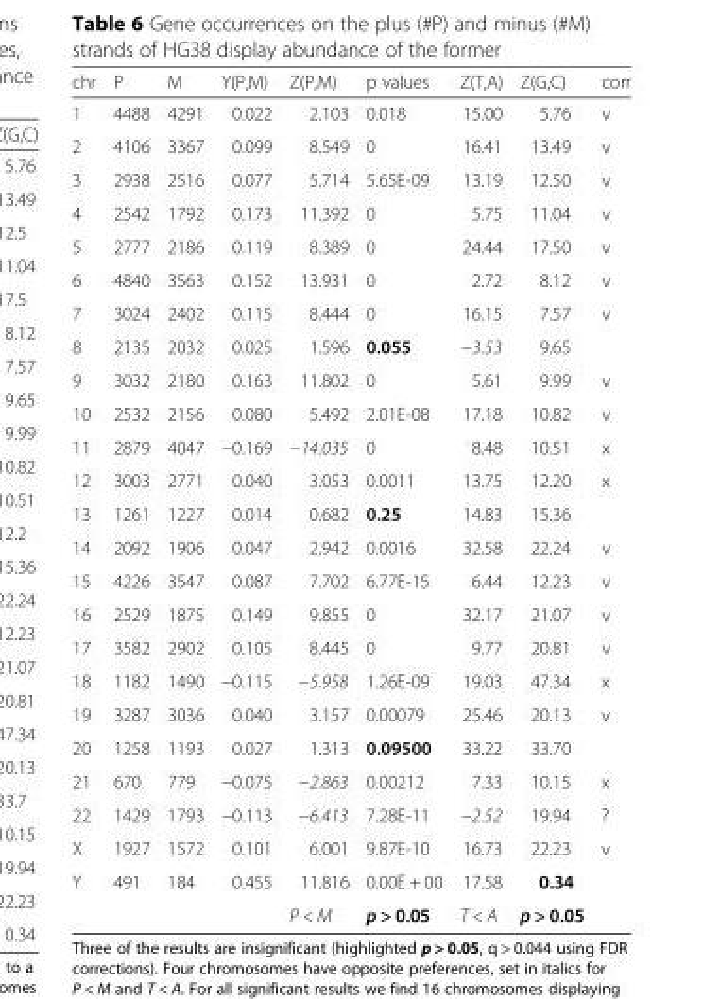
<table><thead><tr><td>chr</td><td>P</td><td>M</td><td>Y(P,M)</td><td>Z(P,M)</td><td>p values</td><td>Z(T,A)</td><td>Z(G,C)</td><td>corr</td></tr></thead><tbody><tr><td>1</td><td>4488</td><td>4291</td><td>0.022</td><td>2.103</td><td>0.018</td><td>15.00</td><td>5.76</td><td>v</td></tr><tr><td>2</td><td>4106</td><td>3367</td><td>0.099</td><td>8.549</td><td>0</td><td>16.41</td><td>13.49</td><td>v</td></tr><tr><td>3</td><td>2938</td><td>2516</td><td>0.077</td><td>5.714</td><td>5.65E-09</td><td>13.19</td><td>12.50</td><td>v</td></tr><tr><td>4</td><td>2542</td><td>1792</td><td>0.173</td><td>11.392</td><td>0</td><td>5.75</td><td>11.04</td><td>v</td></tr><tr><td>5</td><td>2777</td><td>2186</td><td>0.119</td><td>8.389</td><td>0</td><td>24.44</td><td>17.50</td><td>v</td></tr><tr><td>6</td><td>4840</td><td>3563</td><td>0.152</td><td>13.931</td><td>0</td><td>2.72</td><td>8.12</td><td>v</td></tr><tr><td>7</td><td>3024</td><td>2402</td><td>0.115</td><td>8.444</td><td>0</td><td>16.15</td><td>7.57</td><td>v</td></tr><tr><td>8</td><td>2135</td><td>2032</td><td>0.025</td><td>1.596</td><td>0.055</td><td>−3.53</td><td>9.65</td><td></td></tr><tr><td>9</td><td>3032</td><td>2180</td><td>0.163</td><td>11.802</td><td>0</td><td>5.61</td><td>9.99</td><td>v</td></tr><tr><td>10</td><td>2532</td><td>2156</td><td>0.080</td><td>5.492</td><td>2.01E-08</td><td>17.18</td><td>10.82</td><td>v</td></tr><tr><td>11</td><td>2879</td><td>4047</td><td>−0.169</td><td>−14.035</td><td>0</td><td>8.48</td><td>10.51</td><td>x</td></tr><tr><td>12</td><td>3003</td><td>2771</td><td>0.040</td><td>3.053</td><td>0.0011</td><td>13.75</td><td>12.20</td><td>x</td></tr><tr><td>13</td><td>1261</td><td>1227</td><td>0.014</td><td>0.682</td><td>0.25</td><td>14.83</td><td>15.36</td><td></td></tr><tr><td>14</td><td>2092</td><td>1906</td><td>0.047</td><td>2.942</td><td>0.0016</td><td>32.58</td><td>22.24</td><td>v</td></tr><tr><td>15</td><td>4226</td><td>3547</td><td>0.087</td><td>7.702</td><td>6.77E-15</td><td>6.44</td><td>12.23</td><td>v</td></tr><tr><td>16</td><td>2529</td><td>1875</td><td>0.149</td><td>9.855</td><td>0</td><td>32.17</td><td>21.07</td><td>v</td></tr><tr><td>17</td><td>3582</td><td>2902</td><td>0.105</td><td>8.445</td><td>0</td><td>9.77</td><td>20.81</td><td>v</td></tr><tr><td>18</td><td>1182</td><td>1490</td><td>−0.115</td><td>−5.958</td><td>1.26E-09</td><td>19.03</td><td>47.34</td><td>x</td></tr><tr><td>19</td><td>3287</td><td>3036</td><td>0.040</td><td>3.157</td><td>0.00079</td><td>25.46</td><td>20.13</td><td>v</td></tr><tr><td>20</td><td>1258</td><td>1193</td><td>0.027</td><td>1.313</td><td>0.09500</td><td>33.22</td><td>33.70</td><td></td></tr><tr><td>21</td><td>670</td><td>779</td><td>−0.075</td><td>−2.863</td><td>0.00212</td><td>7.33</td><td>10.15</td><td>x</td></tr><tr><td>22</td><td>1429</td><td>1793</td><td>−0.113</td><td>−6.413</td><td>7.28E-11</td><td>−2.52</td><td>19.94</td><td>?</td></tr><tr><td>X</td><td>1927</td><td>1572</td><td>0.101</td><td>6.001</td><td>9.87E-10</td><td>16.73</td><td>22.23</td><td>v</td></tr><tr><td rowspan="2">Y</td><td>491</td><td>184</td><td>0.455</td><td>11.816</td><td>0.00E + 00</td><td>17.58</td><td>0.34</td><td></td></tr><tr><td></td><td></td><td></td><td>P &lt; M</td><td>p &gt; 0.05</td><td>T &lt; A</td><td>p &gt; 0.05</td><td></td></tr></tbody></table>